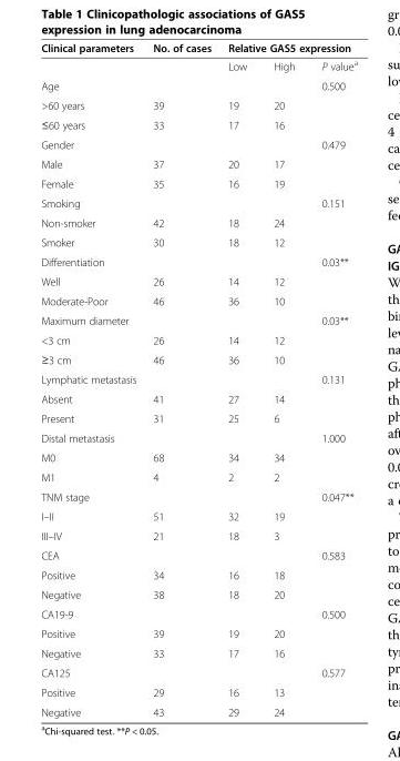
<table><thead><tr><td rowspan="2">Clinical parameters</td><td rowspan="2">No. of cases</td><td colspan="3">Relative GAS5 expression</td></tr><tr><td>Low</td><td>High</td><td>P value<sup>a</sup></td></tr></thead><tbody><tr><td>Age</td><td></td><td></td><td></td><td>0.500</td></tr><tr><td>&gt;60 years</td><td>39</td><td>19</td><td>20</td><td></td></tr><tr><td>≤60 years</td><td>33</td><td>17</td><td>16</td><td></td></tr><tr><td>Gender</td><td></td><td></td><td></td><td>0.479</td></tr><tr><td>Male</td><td>37</td><td>20</td><td>17</td><td></td></tr><tr><td>Female</td><td>35</td><td>16</td><td>19</td><td></td></tr><tr><td>Smoking</td><td></td><td></td><td></td><td>0.151</td></tr><tr><td>Non-smoker</td><td>42</td><td>18</td><td>24</td><td></td></tr><tr><td>Smoker</td><td>30</td><td>18</td><td>12</td><td></td></tr><tr><td>Differentiation</td><td></td><td></td><td></td><td>0.03**</td></tr><tr><td>Well</td><td>26</td><td>14</td><td>12</td><td></td></tr><tr><td>Moderate-Poor</td><td>46</td><td>36</td><td>10</td><td></td></tr><tr><td>Maximum diameter</td><td></td><td></td><td></td><td>0.03**</td></tr><tr><td>&lt;3 cm</td><td>26</td><td>14</td><td>12</td><td></td></tr><tr><td>≥3 cm</td><td>46</td><td>36</td><td>10</td><td></td></tr><tr><td>Lymphatic metastasis</td><td></td><td></td><td></td><td>0.131</td></tr><tr><td>Absent</td><td>41</td><td>27</td><td>14</td><td></td></tr><tr><td>Present</td><td>31</td><td>25</td><td>6</td><td></td></tr><tr><td>Distal metastasis</td><td></td><td></td><td></td><td>1.000</td></tr><tr><td>M0</td><td>68</td><td>34</td><td>34</td><td></td></tr><tr><td>M1</td><td>4</td><td>2</td><td>2</td><td></td></tr><tr><td>TNM stage</td><td></td><td></td><td></td><td>0.047**</td></tr><tr><td>I–II</td><td>51</td><td>32</td><td>19</td><td></td></tr><tr><td>III–IV</td><td>21</td><td>18</td><td>3</td><td></td></tr><tr><td>CEA</td><td></td><td></td><td></td><td>0.583</td></tr><tr><td>Positive</td><td>34</td><td>16</td><td>18</td><td></td></tr><tr><td>Negative</td><td>38</td><td>18</td><td>20</td><td></td></tr><tr><td>CA19-9</td><td></td><td></td><td></td><td>0.500</td></tr><tr><td>Positive</td><td>39</td><td>19</td><td>20</td><td></td></tr><tr><td>Negative</td><td>33</td><td>17</td><td>16</td><td></td></tr><tr><td>CA125</td><td></td><td></td><td></td><td>0.577</td></tr><tr><td>Positive</td><td>29</td><td>16</td><td>13</td><td></td></tr><tr><td>Negative</td><td>43</td><td>29</td><td>24</td><td></td></tr></tbody></table>